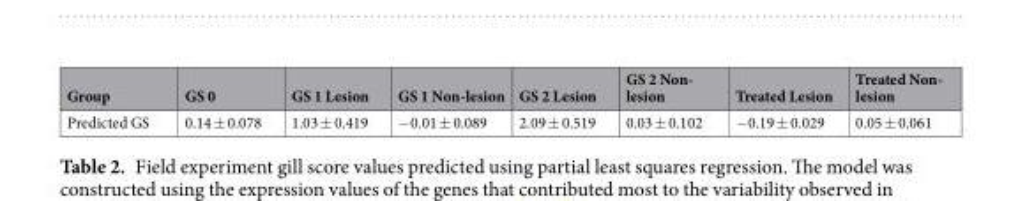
<table><thead><tr><td>Group</td><td>GS 0</td><td>GS 1 Lesion</td><td>GS 1 Non-lesion</td><td>GS 2 Lesion</td><td>GS 2 Non- lesion</td><td>Treated Lesion</td><td>Treated Non- lesion</td></tr></thead><tbody><tr><td>Predicted GS</td><td>0.14 ± 0.078</td><td>1.03 ± 0.419</td><td>−0.01 ± 0.089</td><td>2.09 ± 0.519</td><td>0.03 ± 0.102</td><td>−0.19 ± 0.029</td><td>0.05 ± 0.061</td></tr></tbody></table>